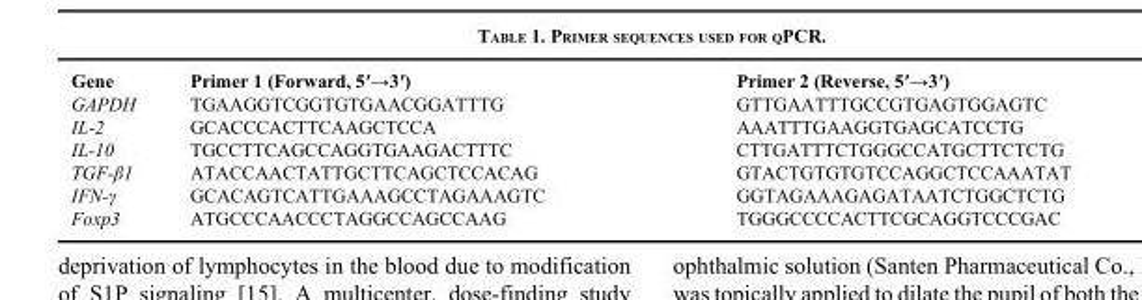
<table><thead><tr><td>Gene</td><td>Primer 1 (Forward, 5′→3′)</td><td>Primer 2 (Reverse, 5′→3′)</td></tr></thead><tbody><tr><td>GAPDH</td><td>TGAAGGTCGGTGTGAACGGATTTG</td><td>GTTGAATTTGCCGTGAGTGGAGTC</td></tr><tr><td>IL-2</td><td>GCACCCACTTCAAGCTCCA</td><td>AAATTTGAAGGTGAGCATCCTG</td></tr><tr><td>IL-10</td><td>TGCCTTCAGCCAGGTGAAGACTTTC</td><td>CTTGATTTCTGGGCCATGCTTCTCTG</td></tr><tr><td>TGF-β1</td><td>ATACCAACTATTGCTTCAGCTCCACAG</td><td>GTACTGTGTGTCCAGGCTCCAAATAT</td></tr><tr><td>IFN-γ</td><td>GCACAGTCATTGAAAGCCTAGAAAGTC</td><td>GGTAGAAAGAGATAATCTGGCTCTG</td></tr><tr><td>Foxp3</td><td>ATGCCCAACCCTAGGCCAGCCAAG</td><td>TGGGCCCCACTTCGCAGGTCCCGAC</td></tr></tbody></table>